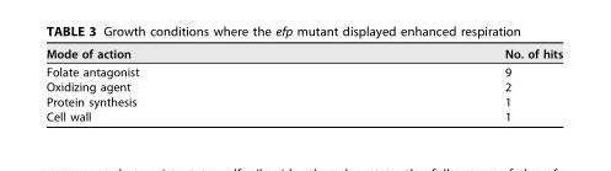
<table><thead><tr><td>Mode of action</td><td>No. of hits</td></tr></thead><tbody><tr><td>Folate antagonist</td><td>9</td></tr><tr><td>Oxidizing agent</td><td>2</td></tr><tr><td>Protein synthesis</td><td>1</td></tr><tr><td>Cell wall</td><td>1</td></tr></tbody></table>